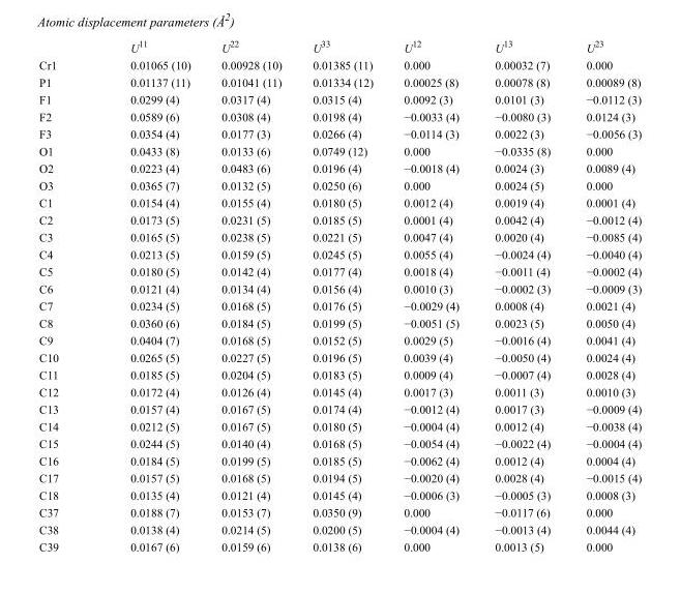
<table><thead><tr><td></td><td>U<sup>11</sup></td><td>U<sup>22</sup></td><td>U<sup>33</sup></td><td>U<sup>12</sup></td><td>U<sup>13</sup></td><td>U<sup>23</sup></td></tr></thead><tbody><tr><td>Cr1</td><td>0.01065 (10)</td><td>0.00928 (10)</td><td>0.01385 (11)</td><td>0.000</td><td>0.00032 (7)</td><td>0.000</td></tr><tr><td>P1</td><td>0.01137 (11)</td><td>0.01041 (11)</td><td>0.01334 (12)</td><td>0.00025 (8)</td><td>0.00078 (8)</td><td>0.00089 (8)</td></tr><tr><td>F1</td><td>0.0299 (4)</td><td>0.0317 (4)</td><td>0.0315 (4)</td><td>0.0092 (3)</td><td>0.0101 (3)</td><td>−0.0112 (3)</td></tr><tr><td>F2</td><td>0.0589 (6)</td><td>0.0308 (4)</td><td>0.0198 (4)</td><td>−0.0033 (4)</td><td>−0.0080 (3)</td><td>0.0124 (3)</td></tr><tr><td>F3</td><td>0.0354 (4)</td><td>0.0177 (3)</td><td>0.0266 (4)</td><td>−0.0114 (3)</td><td>0.0022 (3)</td><td>−0.0056 (3)</td></tr><tr><td>O1</td><td>0.0433 (8)</td><td>0.0133 (6)</td><td>0.0749 (12)</td><td>0.000</td><td>−0.0335 (8)</td><td>0.000</td></tr><tr><td>O2</td><td>0.0223 (4)</td><td>0.0483 (6)</td><td>0.0196 (4)</td><td>−0.0018 (4)</td><td>0.0024 (3)</td><td>0.0089 (4)</td></tr><tr><td>O3</td><td>0.0365 (7)</td><td>0.0132 (5)</td><td>0.0250 (6)</td><td>0.000</td><td>0.0024 (5)</td><td>0.000</td></tr><tr><td>C1</td><td>0.0154 (4)</td><td>0.0155 (4)</td><td>0.0180 (5)</td><td>0.0012 (4)</td><td>0.0019 (4)</td><td>0.0001 (4)</td></tr><tr><td>C2</td><td>0.0173 (5)</td><td>0.0231 (5)</td><td>0.0185 (5)</td><td>0.0001 (4)</td><td>0.0042 (4)</td><td>−0.0012 (4)</td></tr><tr><td>C3</td><td>0.0165 (5)</td><td>0.0238 (5)</td><td>0.0221 (5)</td><td>0.0047 (4)</td><td>0.0020 (4)</td><td>−0.0085 (4)</td></tr><tr><td>C4</td><td>0.0213 (5)</td><td>0.0159 (5)</td><td>0.0245 (5)</td><td>0.0055 (4)</td><td>−0.0024 (4)</td><td>−0.0040 (4)</td></tr><tr><td>C5</td><td>0.0180 (5)</td><td>0.0142 (4)</td><td>0.0177 (4)</td><td>0.0018 (4)</td><td>−0.0011 (4)</td><td>−0.0002 (4)</td></tr><tr><td>C6</td><td>0.0121 (4)</td><td>0.0134 (4)</td><td>0.0156 (4)</td><td>0.0010 (3)</td><td>−0.0002 (3)</td><td>−0.0009 (3)</td></tr><tr><td>C7</td><td>0.0234 (5)</td><td>0.0168 (5)</td><td>0.0176 (5)</td><td>−0.0029 (4)</td><td>0.0008 (4)</td><td>0.0021 (4)</td></tr><tr><td>C8</td><td>0.0360 (6)</td><td>0.0184 (5)</td><td>0.0199 (5)</td><td>−0.0051 (5)</td><td>0.0023 (5)</td><td>0.0050 (4)</td></tr><tr><td>C9</td><td>0.0404 (7)</td><td>0.0168 (5)</td><td>0.0152 (5)</td><td>0.0029 (5)</td><td>−0.0016 (4)</td><td>0.0041 (4)</td></tr><tr><td>C10</td><td>0.0265 (5)</td><td>0.0227 (5)</td><td>0.0196 (5)</td><td>0.0039 (4)</td><td>−0.0050 (4)</td><td>0.0024 (4)</td></tr><tr><td>C11</td><td>0.0185 (5)</td><td>0.0204 (5)</td><td>0.0183 (5)</td><td>0.0009 (4)</td><td>−0.0007 (4)</td><td>0.0028 (4)</td></tr><tr><td>C12</td><td>0.0172 (4)</td><td>0.0126 (4)</td><td>0.0145 (4)</td><td>0.0017 (3)</td><td>0.0011 (3)</td><td>0.0010 (3)</td></tr><tr><td>C13</td><td>0.0157 (4)</td><td>0.0167 (5)</td><td>0.0174 (4)</td><td>−0.0012 (4)</td><td>0.0017 (3)</td><td>−0.0009 (4)</td></tr><tr><td>C14</td><td>0.0212 (5)</td><td>0.0167 (5)</td><td>0.0180 (5)</td><td>−0.0004 (4)</td><td>0.0012 (4)</td><td>−0.0038 (4)</td></tr><tr><td>C15</td><td>0.0244 (5)</td><td>0.0140 (4)</td><td>0.0168 (5)</td><td>−0.0054 (4)</td><td>−0.0022 (4)</td><td>−0.0004 (4)</td></tr><tr><td>C16</td><td>0.0184 (5)</td><td>0.0199 (5)</td><td>0.0185 (5)</td><td>−0.0062 (4)</td><td>0.0012 (4)</td><td>0.0004 (4)</td></tr><tr><td>C17</td><td>0.0157 (5)</td><td>0.0168 (5)</td><td>0.0194 (5)</td><td>−0.0020 (4)</td><td>0.0028 (4)</td><td>−0.0015 (4)</td></tr><tr><td>C18</td><td>0.0135 (4)</td><td>0.0121 (4)</td><td>0.0145 (4)</td><td>−0.0006 (3)</td><td>−0.0005 (3)</td><td>0.0008 (3)</td></tr><tr><td>C37</td><td>0.0188 (7)</td><td>0.0153 (7)</td><td>0.0350 (9)</td><td>0.000</td><td>−0.0117 (6)</td><td>0.000</td></tr><tr><td>C38</td><td>0.0138 (4)</td><td>0.0214 (5)</td><td>0.0200 (5)</td><td>−0.0004 (4)</td><td>−0.0013 (4)</td><td>0.0044 (4)</td></tr><tr><td>C39</td><td>0.0167 (6)</td><td>0.0159 (6)</td><td>0.0138 (6)</td><td>0.000</td><td>0.0013 (5)</td><td>0.000</td></tr></tbody></table>